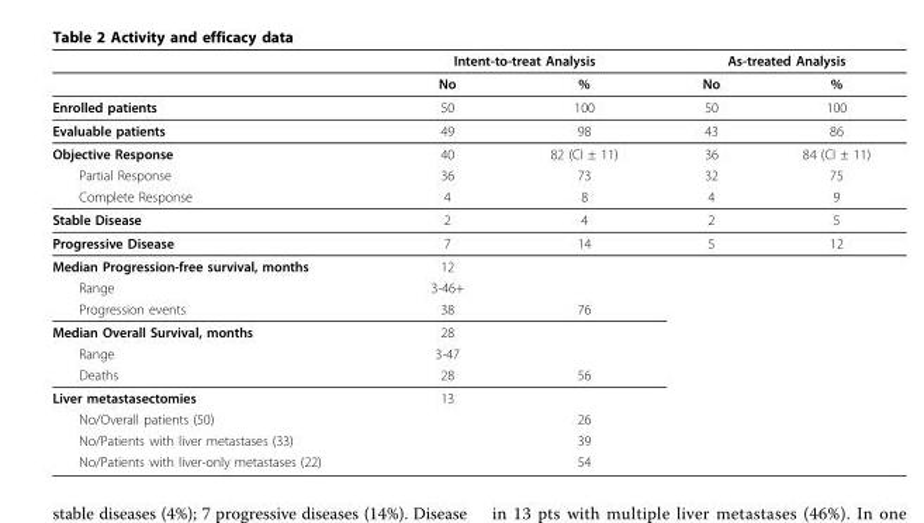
<table><thead><tr><td rowspan="2"></td><td colspan="2">Intent-to-treat Analysis</td><td colspan="2">As-treated Analysis</td></tr><tr><td>No</td><td>%</td><td>No</td><td>%</td></tr></thead><tbody><tr><td>Enrolled patients</td><td>50</td><td>100</td><td>50</td><td>100</td></tr><tr><td>Evaluable patients</td><td>49</td><td>98</td><td>43</td><td>86</td></tr><tr><td>Objective Response</td><td>40</td><td>82 (CI ± 11)</td><td>36</td><td>84 (CI ± 11)</td></tr><tr><td>Partial Response</td><td>36</td><td>73</td><td>32</td><td>75</td></tr><tr><td>Complete Response</td><td>4</td><td>8</td><td>4</td><td>9</td></tr><tr><td>Stable Disease</td><td>2</td><td>4</td><td>2</td><td>5</td></tr><tr><td>Progressive Disease</td><td>7</td><td>14</td><td>5</td><td>12</td></tr><tr><td>Median Progression-free survival, months</td><td>12</td><td></td><td></td><td></td></tr><tr><td>Range</td><td>3-46+</td><td></td><td></td><td></td></tr><tr><td>Progression events</td><td>38</td><td>76</td><td></td><td></td></tr><tr><td>Median Overall Survival, months</td><td>28</td><td></td><td></td><td></td></tr><tr><td>Range</td><td>3-47</td><td></td><td></td><td></td></tr><tr><td>Deaths</td><td>28</td><td>56</td><td></td><td></td></tr><tr><td>Liver metastasectomies</td><td>13</td><td></td><td></td><td></td></tr><tr><td>No/Overall patients (50)</td><td></td><td>26</td><td></td><td></td></tr><tr><td>No/Patients with liver metastases (33)</td><td></td><td>39</td><td></td><td></td></tr><tr><td>No/Patients with liver-only metastases (22)</td><td></td><td>54</td><td></td><td></td></tr></tbody></table>